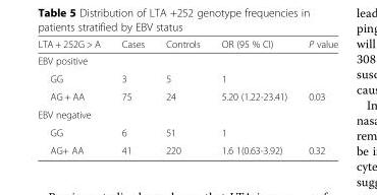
<table><thead><tr><td>LTA + 252G &gt; A</td><td>Cases</td><td>Controls</td><td>OR (95 % CI)</td><td>P value</td></tr></thead><tbody><tr><td colspan="5">EBV positive</td></tr><tr><td>GG</td><td>3</td><td>5</td><td>1</td><td></td></tr><tr><td>AG + AA</td><td>75</td><td>24</td><td>5.20 (1.22-23.41)</td><td>0.03</td></tr><tr><td colspan="5">EBV negative</td></tr><tr><td>GG</td><td>6</td><td>51</td><td>1</td><td></td></tr><tr><td>AG+ AA</td><td>41</td><td>220</td><td>1.6 1(0.63-3.92)</td><td>0.32</td></tr></tbody></table>